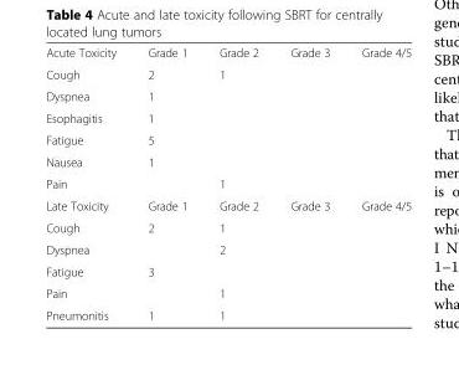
<table><tbody><tr><td>Acute Toxicity</td><td>Grade 1</td><td>Grade 2</td><td>Grade 3</td><td>Grade 4/5</td></tr><tr><td>Cough</td><td>2</td><td>1</td><td></td><td></td></tr><tr><td>Dyspnea</td><td>1</td><td></td><td></td><td></td></tr><tr><td>Esophagitis</td><td>1</td><td></td><td></td><td></td></tr><tr><td>Fatigue</td><td>5</td><td></td><td></td><td></td></tr><tr><td>Nausea</td><td>1</td><td></td><td></td><td></td></tr><tr><td>Pain</td><td></td><td>1</td><td></td><td></td></tr><tr><td>Late Toxicity</td><td>Grade 1</td><td>Grade 2</td><td>Grade 3</td><td>Grade 4/5</td></tr><tr><td>Cough</td><td>2</td><td>1</td><td></td><td></td></tr><tr><td>Dyspnea</td><td></td><td>2</td><td></td><td></td></tr><tr><td>Fatigue</td><td>3</td><td></td><td></td><td></td></tr><tr><td>Pain</td><td></td><td>1</td><td></td><td></td></tr><tr><td>Pneumonitis</td><td>1</td><td>1</td><td></td><td></td></tr></tbody></table>